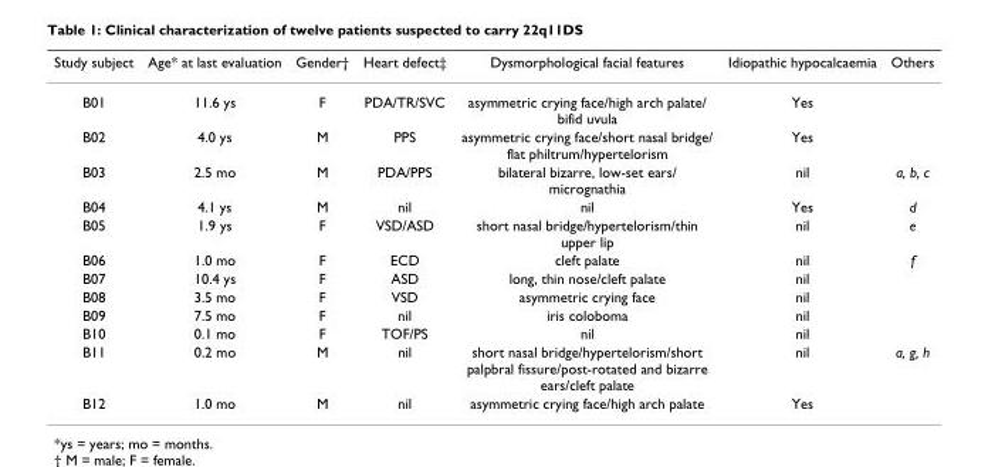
<table><thead><tr><td>Study subject</td><td>Age* at last evaluation</td><td>Gender†</td><td>Heart defect‡</td><td>Dysmorphological facial features</td><td>Idiopathic hypocalcaemia</td><td>Others</td></tr></thead><tbody><tr><td>B01</td><td>11.6 ys</td><td>F</td><td>PDA/TR/SVC</td><td>asymmetric crying face/high arch palate/ bifid uvula</td><td>Yes</td><td></td></tr><tr><td>B02</td><td>4.0 ys</td><td>M</td><td>PPS</td><td>asymmetric crying face/short nasal bridge/ flat philtrum/hypertelorism</td><td>Yes</td><td></td></tr><tr><td>B03</td><td>2.5 mo</td><td>M</td><td>PDA/PPS</td><td>bilateral bizarre, low-set ears/ micrognathia</td><td>nil</td><td>a, b, c</td></tr><tr><td>B04</td><td>4.1 ys</td><td>M</td><td>nil</td><td>nil</td><td>Yes</td><td>d</td></tr><tr><td>B05</td><td>1.9 ys</td><td>F</td><td>VSD/ASD</td><td>short nasal bridge/hypertelorism/thin upper lip</td><td>nil</td><td>e</td></tr><tr><td>B06</td><td>1.0 mo</td><td>F</td><td>ECD</td><td>cleft palate</td><td>nil</td><td>f</td></tr><tr><td>B07</td><td>10.4 ys</td><td>F</td><td>ASD</td><td>long, thin nose/cleft palate</td><td>nil</td><td></td></tr><tr><td>B08</td><td>3.5 mo</td><td>F</td><td>VSD</td><td>asymmetric crying face</td><td>nil</td><td></td></tr><tr><td>B09</td><td>7.5 mo</td><td>F</td><td>nil</td><td>iris coloboma</td><td>nil</td><td></td></tr><tr><td>B10</td><td>0.1 mo</td><td>F</td><td>TOF/PS</td><td>nil</td><td>nil</td><td></td></tr><tr><td>B11</td><td>0.2 mo</td><td>M</td><td>nil</td><td>short nasal bridge/hypertelorism/short palpbral fissure/post-rotated and bizarre ears/cleft palate</td><td>nil</td><td>a, g, h</td></tr><tr><td>B12</td><td>1.0 mo</td><td>M</td><td>nil</td><td>asymmetric crying face/high arch palate</td><td>Yes</td><td></td></tr></tbody></table>